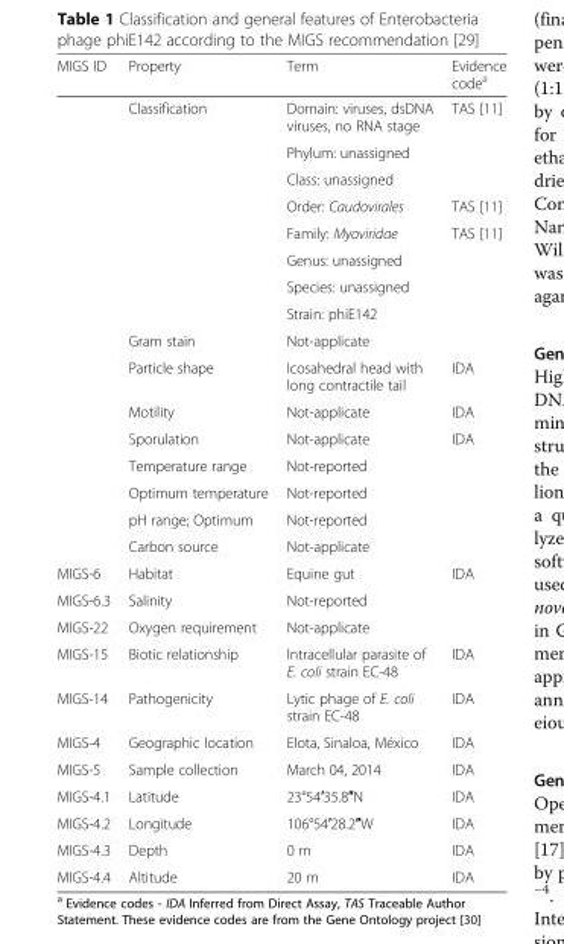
<table><thead><tr><td>MIGS ID</td><td>Property</td><td>Term</td><td>Evidence code<sup>a</sup></td></tr></thead><tbody><tr><td></td><td>Classification</td><td>Domain: viruses, dsDNA viruses, no RNA stage</td><td>TAS [11]</td></tr><tr><td></td><td></td><td>Phylum: unassigned</td><td></td></tr><tr><td></td><td></td><td>Class: unassigned</td><td></td></tr><tr><td></td><td></td><td>Order: Caudovirales</td><td>TAS [11]</td></tr><tr><td></td><td></td><td>Family: Myoviridae</td><td>TAS [11]</td></tr><tr><td></td><td></td><td>Genus: unassigned</td><td></td></tr><tr><td></td><td></td><td>Species: unassigned</td><td></td></tr><tr><td></td><td></td><td>Strain: phiE142</td><td></td></tr><tr><td></td><td>Gram stain</td><td>Not-applicate</td><td></td></tr><tr><td></td><td>Particle shape</td><td>Icosahedral head with long contractile tail</td><td>IDA</td></tr><tr><td></td><td>Motility</td><td>Not-applicate</td><td>IDA</td></tr><tr><td></td><td>Sporulation</td><td>Not-applicate</td><td>IDA</td></tr><tr><td></td><td>Temperature range</td><td>Not-reported</td><td></td></tr><tr><td></td><td>Optimum temperature</td><td>Not-reported</td><td></td></tr><tr><td></td><td>pH range; Optimum</td><td>Not-reported</td><td></td></tr><tr><td></td><td>Carbon source</td><td>Not-applicate</td><td></td></tr><tr><td>MIGS-6</td><td>Habitat</td><td>Equine gut</td><td>IDA</td></tr><tr><td>MIGS-6.3</td><td>Salinity</td><td>Not-reported</td><td></td></tr><tr><td>MIGS-22</td><td>Oxygen requirement</td><td>Not-applicate</td><td></td></tr><tr><td>MIGS-15</td><td>Biotic relationship</td><td>Intracellular parasite of E. coli strain EC-48</td><td>IDA</td></tr><tr><td>MIGS-14</td><td>Pathogenicity</td><td>Lytic phage of E. coli strain EC-48</td><td>IDA</td></tr><tr><td>MIGS-4</td><td>Geographic location</td><td>Elota, Sinaloa, México</td><td>IDA</td></tr><tr><td>MIGS-5</td><td>Sample collection</td><td>March 04, 2014</td><td>IDA</td></tr><tr><td>MIGS-4.1</td><td>Latitude</td><td>23°54′35.8″N</td><td>IDA</td></tr><tr><td>MIGS-4.2</td><td>Longitude</td><td>106°54′28.2″W</td><td>IDA</td></tr><tr><td>MIGS-4.3</td><td>Depth</td><td>0 m</td><td>IDA</td></tr><tr><td>MIGS-4.4</td><td>Altitude</td><td>20 m</td><td>IDA</td></tr></tbody></table>